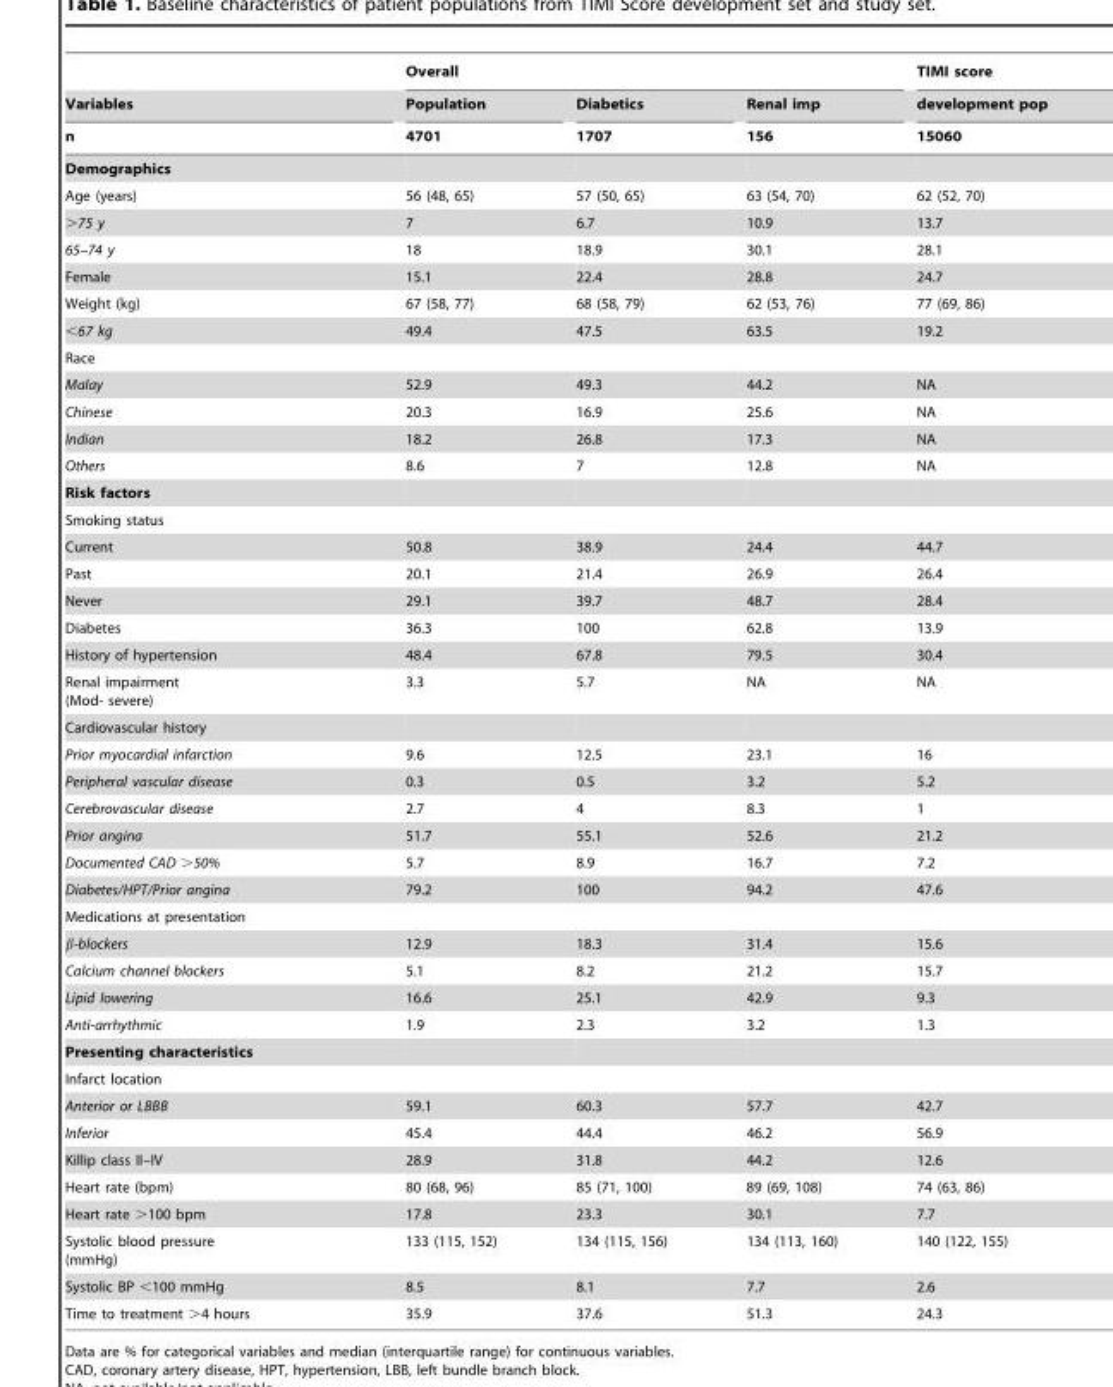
<table><thead><tr><td rowspan="3">Variables n</td><td colspan="3">Overall</td><td rowspan="3">TIMI score development pop 15060</td></tr><tr><td rowspan="2">Population 4701</td><td rowspan="2">Diabetics 1707</td><td rowspan="2">Renal imp 156</td></tr><tr></tr></thead><tbody><tr><td colspan="5">Demographics</td></tr><tr><td>Age (years)</td><td>56 (48, 65)</td><td>57 (50, 65)</td><td>63 (54, 70)</td><td>62 (52, 70)</td></tr><tr><td>&gt;75 y</td><td>7</td><td>6.7</td><td>10.9</td><td>13.7</td></tr><tr><td>65–74 y</td><td>18</td><td>18.9</td><td>30.1</td><td>28.1</td></tr><tr><td>Female</td><td>15.1</td><td>22.4</td><td>28.8</td><td>24.7</td></tr><tr><td>Weight (kg)</td><td>67 (58, 77)</td><td>68 (58, 79)</td><td>62 (53, 76)</td><td>77 (69, 86)</td></tr><tr><td>&lt;67 kg</td><td>49.4</td><td>47.5</td><td>63.5</td><td>19.2</td></tr><tr><td colspan="5">Race</td></tr><tr><td>Malay</td><td>52.9</td><td>49.3</td><td>44.2</td><td>NA</td></tr><tr><td>Chinese</td><td>20.3</td><td>16.9</td><td>25.6</td><td>NA</td></tr><tr><td>Indian</td><td>18.2</td><td>26.8</td><td>17.3</td><td>NA</td></tr><tr><td>Others</td><td>8.6</td><td>7</td><td>12.8</td><td>NA</td></tr><tr><td colspan="5">Risk factors</td></tr><tr><td colspan="5">Smoking status</td></tr><tr><td>Current</td><td>50.8</td><td>38.9</td><td>24.4</td><td>44.7</td></tr><tr><td>Past</td><td>20.1</td><td>21.4</td><td>26.9</td><td>26.4</td></tr><tr><td>Never</td><td>29.1</td><td>39.7</td><td>48.7</td><td>28.4</td></tr><tr><td>Diabetes</td><td>36.3</td><td>100</td><td>62.8</td><td>13.9</td></tr><tr><td>History of hypertension</td><td>48.4</td><td>67.8</td><td>79.5</td><td>30.4</td></tr><tr><td>Renal impairment (Mod- severe)</td><td>3.3</td><td>5.7</td><td>NA</td><td>NA</td></tr><tr><td colspan="5">Cardiovascular history</td></tr><tr><td>Prior myocardial infarction</td><td>9.6</td><td>12.5</td><td>23.1</td><td>16</td></tr><tr><td>Peripheral vascular disease</td><td>0.3</td><td>0.5</td><td>3.2</td><td>5.2</td></tr><tr><td>Cerebrovascular disease</td><td>2.7</td><td>4</td><td>8.3</td><td>1</td></tr><tr><td>Prior angina</td><td>51.7</td><td>55.1</td><td>52.6</td><td>21.2</td></tr><tr><td>Documented CAD &gt;50%</td><td>5.7</td><td>8.9</td><td>16.7</td><td>7.2</td></tr><tr><td>Diabetes/HPT/Prior angina</td><td>79.2</td><td>100</td><td>94.2</td><td>47.6</td></tr><tr><td colspan="5">Medications at presentation</td></tr><tr><td>β-blockers</td><td>12.9</td><td>18.3</td><td>31.4</td><td>15.6</td></tr><tr><td>Calcium channel blockers</td><td>5.1</td><td>8.2</td><td>21.2</td><td>15.7</td></tr><tr><td>Lipid lowering</td><td>16.6</td><td>25.1</td><td>42.9</td><td>9.3</td></tr><tr><td>Anti-arrhythmic</td><td>1.9</td><td>2.3</td><td>3.2</td><td>1.3</td></tr><tr><td colspan="5">Presenting characteristics</td></tr><tr><td colspan="5">Infarct location</td></tr><tr><td>Anterior or LBBB</td><td>59.1</td><td>60.3</td><td>57.7</td><td>42.7</td></tr><tr><td>Inferior</td><td>45.4</td><td>44.4</td><td>46.2</td><td>56.9</td></tr><tr><td>Killip class II–IV</td><td>28.9</td><td>31.8</td><td>44.2</td><td>12.6</td></tr><tr><td>Heart rate (bpm)</td><td>80 (68, 96)</td><td>85 (71, 100)</td><td>89 (69, 108)</td><td>74 (63, 86)</td></tr><tr><td>Heart rate &gt;100 bpm</td><td>17.8</td><td>23.3</td><td>30.1</td><td>7.7</td></tr><tr><td>Systolic blood pressure (mmHg)</td><td>133 (115, 152)</td><td>134 (115, 156)</td><td>134 (113, 160)</td><td>140 (122, 155)</td></tr><tr><td>Systolic BP &lt;100 mmHg</td><td>8.5</td><td>8.1</td><td>7.7</td><td>2.6</td></tr><tr><td>Time to treatment &gt;4 hours</td><td>35.9</td><td>37.6</td><td>51.3</td><td>24.3</td></tr></tbody></table>